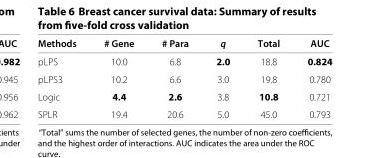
<table><thead><tr><td>Methods</td><td># Gene</td><td># Para</td><td>q</td><td>Total</td><td>AUC</td></tr></thead><tbody><tr><td>pLPS</td><td>10.0</td><td>6.8</td><td>2.0</td><td>18.8</td><td>0.824</td></tr><tr><td>pLPS3</td><td>10.2</td><td>6.6</td><td>3.0</td><td>19.8</td><td>0.780</td></tr><tr><td>Logic</td><td>4.4</td><td>2.6</td><td>3.8</td><td>10.8</td><td>0.721</td></tr><tr><td>SPLR</td><td>19.4</td><td>20.6</td><td>5.0</td><td>45.0</td><td>0.793</td></tr></tbody></table>